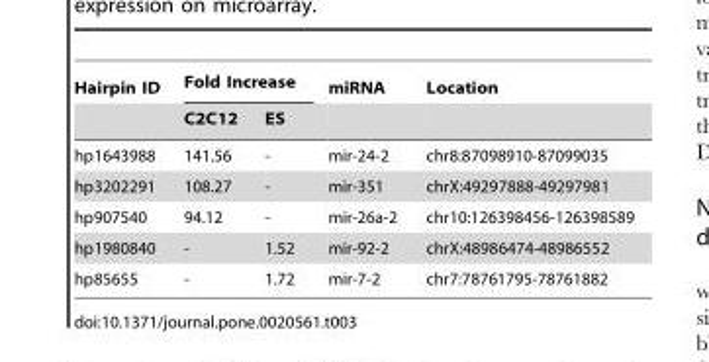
<table><thead><tr><td rowspan="2">Hairpin ID</td><td colspan="2">Fold Increase</td><td rowspan="2">miRNA</td><td rowspan="2">Location</td></tr><tr><td>C2C12</td><td>ES</td></tr></thead><tbody><tr><td>hp1643988</td><td>141.56</td><td>-</td><td>mir-24-2</td><td>chr8:87098910-87099035</td></tr><tr><td>hp3202291</td><td>108.27</td><td>-</td><td>mir-351</td><td>chrX:49297888-49297981</td></tr><tr><td>hp907540</td><td>94.12</td><td>-</td><td>mir-26a-2</td><td>chr10:126398456-126398589</td></tr><tr><td>hp1980840</td><td>-</td><td>1.52</td><td>mir-92-2</td><td>chrX:48986474-48986552</td></tr><tr><td>hp85655</td><td>-</td><td>1.72</td><td>mir-7-2</td><td>chr7:78761795-78761882</td></tr></tbody></table>